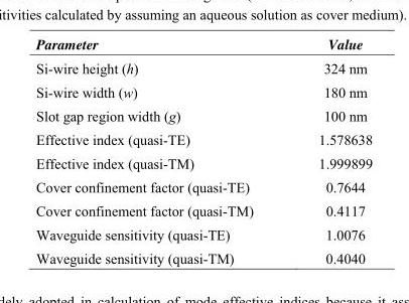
<table><thead><tr><td>Parameter</td><td>Value</td></tr></thead><tbody><tr><td>Si-wire height (h)</td><td>324 nm</td></tr><tr><td>Si-wire width (w)</td><td>180 nm</td></tr><tr><td>Slot gap region width (g)</td><td>100 nm</td></tr><tr><td>Effective index (quasi-TE)</td><td>1.578638</td></tr><tr><td>Effective index (quasi-TM)</td><td>1.999899</td></tr><tr><td>Cover confinement factor (quasi-TE)</td><td>0.7644</td></tr><tr><td>Cover confinement factor (quasi-TM)</td><td>0.4117</td></tr><tr><td>Waveguide sensitivity (quasi-TE)</td><td>1.0076</td></tr><tr><td>Waveguide sensitivity (quasi-TM)</td><td>0.4040</td></tr></tbody></table>